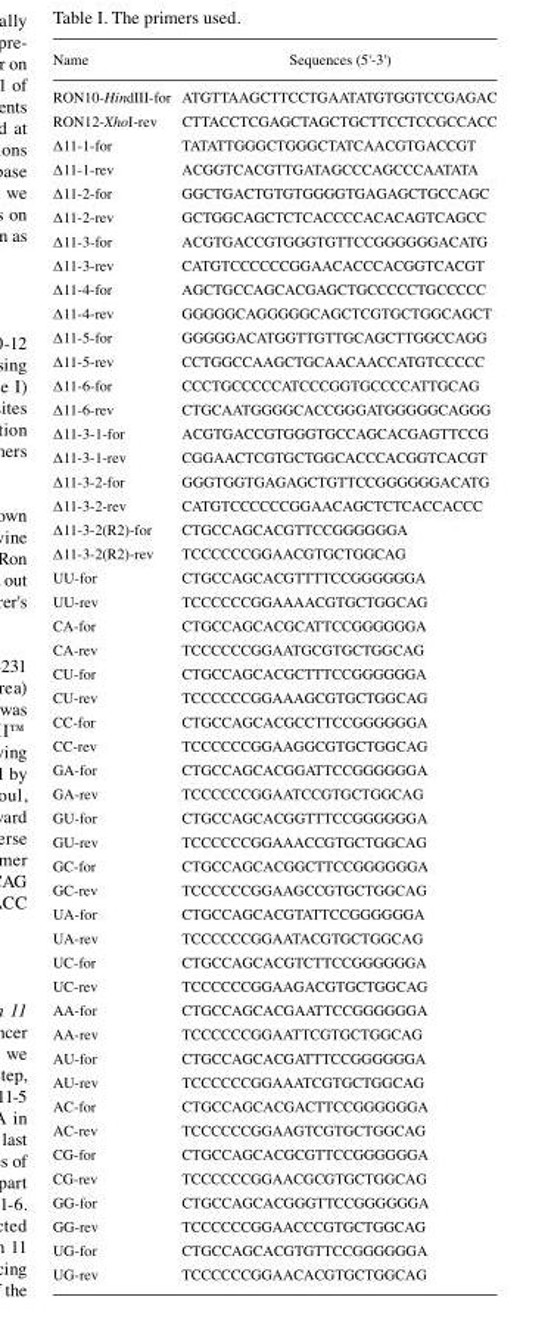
<table><thead><tr><td>Name</td><td>Sequences (5&#x27;-3&#x27;)</td></tr></thead><tbody><tr><td>RON10-HindIII-for</td><td>ATGTTAAGCTTCCTGAATATGTGGTCCGAGAC</td></tr><tr><td>RON12-XhoI-rev</td><td>CTTACCTCGAGCTAGCTGCTTCCTCCGCCACC</td></tr><tr><td>Δ11-1-for</td><td>TATATTGGGCTGGGCTATCAACGTGACCGT</td></tr><tr><td>Δ11-1-rev</td><td>ACGGTCACGTTGATAGCCCAGCCCAATATA</td></tr><tr><td>Δ11-2-for</td><td>GGCTGACTGTGTGGGGTGAGAGCTGCCAGC</td></tr><tr><td>Δ11-2-rev</td><td>GCTGGCAGCTCTCACCCCACACAGTCAGCC</td></tr><tr><td>Δ11-3-for</td><td>ACGTGACCGTGGGTGTTCCGGGGGGACATG</td></tr><tr><td>Δ11-3-rev</td><td>CATGTCCCCCCGGAACACCCACGGTCACGT</td></tr><tr><td>Δ11-4-for</td><td>AGCTGCCAGCACGAGCTGCCCCCTGCCCCC</td></tr><tr><td>Δ11-4-rev</td><td>GGGGGCAGGGGGCAGCTCGTGCTGGCAGCT</td></tr><tr><td>Δ11-5-for</td><td>GGGGGACATGGTTGTTGCAGCTTGGCCAGG</td></tr><tr><td>Δ11-5-rev</td><td>CCTGGCCAAGCTGCAACAACCATGTCCCCC</td></tr><tr><td>Δ11-6-for</td><td>CCCTGCCCCCATCCCGGTGCCCCATTGCAG</td></tr><tr><td>Δ11-6-rev</td><td>CTGCAATGGGGCACCGGGATGGGGGCAGGG</td></tr><tr><td>Δ11-3-1-for</td><td>ACGTGACCGTGGGTGCCAGCACGAGTTCCG</td></tr><tr><td>Δ11-3-1-rev</td><td>CGGAACTCGTGCTGGCACCCACGGTCACGT</td></tr><tr><td>Δ11-3-2-for</td><td>GGGTGGTGAGAGCTGTTCCGGGGGGACATG</td></tr><tr><td>Δ11-3-2-rev</td><td>CATGTCCCCCCGGAACAGCTCTCACCACCC</td></tr><tr><td>Δ11-3-2(R2)-for</td><td>CTGCCAGCACGTTCCGGGGGGA</td></tr><tr><td>Δ11-3-2(R2)-rev</td><td>TCCCCCCGGAACGTGCTGGCAG</td></tr><tr><td>UU-for</td><td>CTGCCAGCACGTTTTCCGGGGGGA</td></tr><tr><td>UU-rev</td><td>TCCCCCCGGAAAACGTGCTGGCAG</td></tr><tr><td>CA-for</td><td>CTGCCAGCACGCATTCCGGGGGGA</td></tr><tr><td>CA-rev</td><td>TCCCCCCGGAATGCGTGCTGGCAG</td></tr><tr><td>CU-for</td><td>CTGCCAGCACGCTTTCCGGGGGGA</td></tr><tr><td>CU-rev</td><td>TCCCCCCGGAAAGCGTGCTGGCAG</td></tr><tr><td>CC-for</td><td>CTGCCAGCACGCCTTCCGGGGGGA</td></tr><tr><td>CC-rev</td><td>TCCCCCCGGAAGGCGTGCTGGCAG</td></tr><tr><td>GA-for</td><td>CTGCCAGCACGGATTCCGGGGGGA</td></tr><tr><td>GA-rev</td><td>TCCCCCCGGAATCCGTGCTGGCAG</td></tr><tr><td>GU-for</td><td>CTGCCAGCACGGTTTCCGGGGGGA</td></tr><tr><td>GU-rev</td><td>TCCCCCCGGAAACCGTGCTGGCAG</td></tr><tr><td>GC-for</td><td>CTGCCAGCACGGCTTCCGGGGGGA</td></tr><tr><td>GC-rev</td><td>TCCCCCCGGAAGCCGTGCTGGCAG</td></tr><tr><td>UA-for</td><td>CTGCCAGCACGTATTCCGGGGGGA</td></tr><tr><td>UA-rev</td><td>TCCCCCCGGAATACGTGCTGGCAG</td></tr><tr><td>UC-for</td><td>CTGCCAGCACGTCTTCCGGGGGGA</td></tr><tr><td>UC-rev</td><td>TCCCCCCGGAAGACGTGCTGGCAG</td></tr><tr><td>AA-for</td><td>CTGCCAGCACGAATTCCGGGGGGA</td></tr><tr><td>AA-rev</td><td>TCCCCCCGGAATTCGTGCTGGCAG</td></tr><tr><td>AU-for</td><td>CTGCCAGCACGATTTCCGGGGGGA</td></tr><tr><td>AU-rev</td><td>TCCCCCCGGAAATCGTGCTGGCAG</td></tr><tr><td>AC-for</td><td>CTGCCAGCACGACTTCCGGGGGGA</td></tr><tr><td>AC-rev</td><td>TCCCCCCGGAAGTCGTGCTGGCAG</td></tr><tr><td>CG-for</td><td>CTGCCAGCACGCGTTCCGGGGGGA</td></tr><tr><td>CG-rev</td><td>TCCCCCCGGAACGCGTGCTGGCAG</td></tr><tr><td>GG-for</td><td>CTGCCAGCACGGGTTCCGGGGGGA</td></tr><tr><td>GG-rev</td><td>TCCCCCCGGAACCCGTGCTGGCAG</td></tr><tr><td>UG-for</td><td>CTGCCAGCACGTGTTCCGGGGGGA</td></tr><tr><td>UG-rev</td><td>TCCCCCCGGAACACGTGCTGGCAG</td></tr></tbody></table>